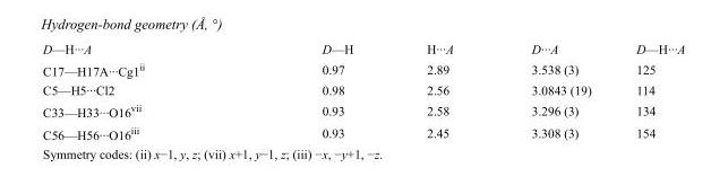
<table><tbody><tr><td>D—H···A</td><td>D—H</td><td>H···A</td><td>D···A</td><td>D—H···A</td></tr><tr><td>C17—H17A···Cg1<sup>ii</sup></td><td>0.97</td><td>2.89</td><td>3.538 (3)</td><td>125</td></tr><tr><td>C5—H5···Cl2</td><td>0.98</td><td>2.56</td><td>3.0843 (19)</td><td>114</td></tr><tr><td>C33—H33···O16<sup>vii</sup></td><td>0.93</td><td>2.58</td><td>3.296 (3)</td><td>134</td></tr><tr><td>C56—H56···O16<sup>iii</sup></td><td>0.93</td><td>2.45</td><td>3.308 (3)</td><td>154</td></tr></tbody></table>